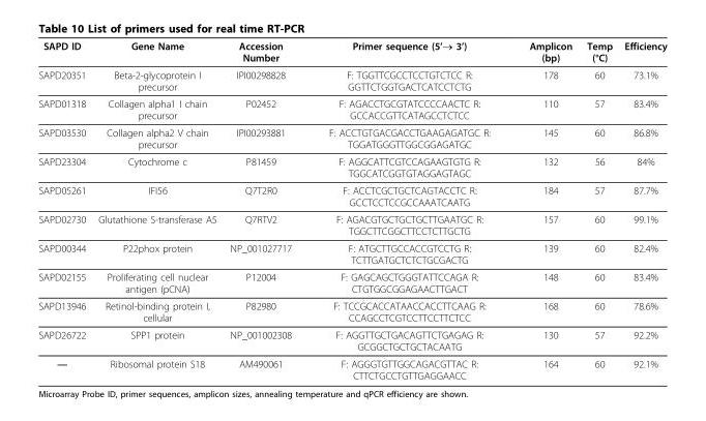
<table><thead><tr><td>SAPD ID</td><td>Gene Name</td><td>Accession Number</td><td>Primer sequence (5’→ 3’)</td><td>Amplicon (bp)</td><td>Temp (°C)</td><td>Efficiency</td></tr></thead><tbody><tr><td>SAPD20351</td><td>Beta-2-glycoprotein I precursor</td><td>IPI00298828</td><td>F: TGGTTCGCCTCCTGTCTCC R: GGTTCTGGTGACTCATCCTCTG</td><td>178</td><td>60</td><td>73.1%</td></tr><tr><td>SAPD01318</td><td>Collagen alpha1 I chain precursor</td><td>P02452</td><td>F: AGACCTGCGTATCCCCAACTC R: GCCACCGTTCATAGCCTCTCC</td><td>110</td><td>57</td><td>83.4%</td></tr><tr><td>SAPD03530</td><td>Collagen alpha2 V chain precursor</td><td>IPI00293881</td><td>F: ACCTGTGACGACCTGAAGAGATGC R: TGGATGGGTTGGCGGAGATGC</td><td>145</td><td>60</td><td>86.8%</td></tr><tr><td>SAPD23304</td><td>Cytochrome c</td><td>P81459</td><td>F: AGGCATTCGTCCAGAAGTGTG R: TGGCATCGGTGTAGGAGTAGC</td><td>132</td><td>56</td><td>84%</td></tr><tr><td>SAPD05261</td><td>IFI56</td><td>Q7T2R0</td><td>F: ACCTCGCTGCTCAGTACCTC R: GCCTCCTCCGCCAAATCAATG</td><td>184</td><td>57</td><td>87.7%</td></tr><tr><td>SAPD02730</td><td>Glutathione S-transferase A5</td><td>Q7RTV2</td><td>F: AGACGTGCTGCTGCTTGAATGC R: TGGCTTCGGCTTCCTCTTGCTG</td><td>157</td><td>60</td><td>99.1%</td></tr><tr><td>SAPD00344</td><td>P22phox protein</td><td>NP_001027717</td><td>F: ATGCTTGCCACCGTCCTG R: TCTTGATGCTCTCTGCGACTG</td><td>139</td><td>60</td><td>82.4%</td></tr><tr><td>SAPD02155</td><td>Proliferating cell nuclear antigen (pCNA)</td><td>P12004</td><td>F: GAGCAGCTGGGTATTCCAGA R: CTGTGGCGGAGAACTTGACT</td><td>148</td><td>60</td><td>83.4%</td></tr><tr><td>SAPD13946</td><td>Retinol-binding protein I, cellular</td><td>P82980</td><td>F: TCCGCACCATAACCACCTTCAAG R: CCAGCCTCGTCCTTCCTTCTCC</td><td>168</td><td>60</td><td>78.6%</td></tr><tr><td>SAPD26722</td><td>SPP1 protein</td><td>NP_001002308</td><td>F: AGGTTGCTGACAGTTCTGAGAG R: GCGGCTGCTGCTACAATG</td><td>130</td><td>57</td><td>92.2%</td></tr><tr><td>—</td><td>Ribosomal protein S18</td><td>AM490061</td><td>F: AGGGTGTTGGCAGACGTTAC R: CTTCTGCCTGTTGAGGAACC</td><td>164</td><td>60</td><td>92.1%</td></tr></tbody></table>